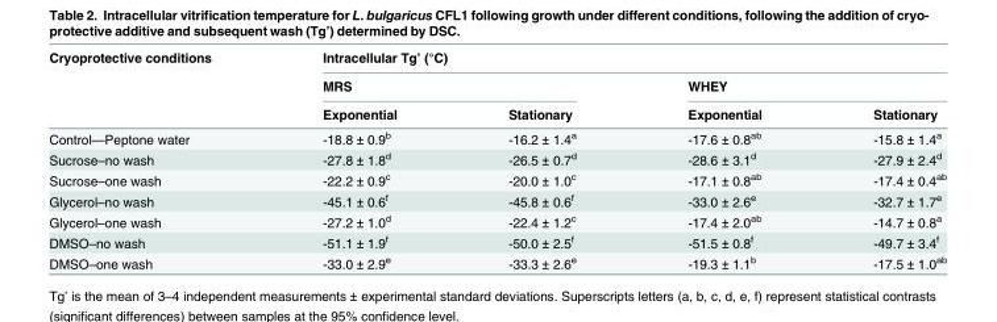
<table><thead><tr><td rowspan="3">Cryoprotective conditions</td><td colspan="4">Intracellular Tg’ (°C)</td></tr><tr><td colspan="2">MRS</td><td colspan="2">WHEY</td></tr><tr><td>Exponential</td><td>Stationary</td><td>Exponential</td><td>Stationary</td></tr></thead><tbody><tr><td>Control—Peptone water</td><td>-18.8 ± 0.9<sup>b</sup></td><td>-16.2 ± 1.4<sup>a</sup></td><td>-17.6 ± 0.8<sup>ab</sup></td><td>-15.8 ± 1.4<sup>a</sup></td></tr><tr><td>Sucrose–no wash</td><td>-27.8 ± 1.8<sup>d</sup></td><td>-26.5 ± 0.7<sup>d</sup></td><td>-28.6 ± 3.1<sup>d</sup></td><td>-27.9 ± 2.4<sup>d</sup></td></tr><tr><td>Sucrose–one wash</td><td>-22.2 ± 0.9<sup>c</sup></td><td>-20.0 ± 1.0<sup>c</sup></td><td>-17.1 ± 0.8<sup>ab</sup></td><td>-17.4 ± 0.4<sup>ab</sup></td></tr><tr><td>Glycerol–no wash</td><td>-45.1 ± 0.6<sup>f</sup></td><td>-45.8 ± 0.6<sup>f</sup></td><td>-33.0 ± 2.6<sup>e</sup></td><td>-32.7 ± 1.7<sup>e</sup></td></tr><tr><td>Glycerol–one wash</td><td>-27.2 ± 1.0<sup>d</sup></td><td>-22.4 ± 1.2<sup>c</sup></td><td>-17.4 ± 2.0<sup>ab</sup></td><td>-14.7 ± 0.8<sup>a</sup></td></tr><tr><td>DMSO–no wash</td><td>-51.1 ± 1.9<sup>f</sup></td><td>-50.0 ± 2.5<sup>f</sup></td><td>-51.5 ± 0.8<sup>f</sup></td><td>-49.7 ± 3.4<sup>f</sup></td></tr><tr><td>DMSO–one wash</td><td>-33.0 ± 2.9<sup>e</sup></td><td>-33.3 ± 2.6<sup>e</sup></td><td>-19.3 ± 1.1<sup>b</sup></td><td>-17.5 ± 1.0<sup>ab</sup></td></tr></tbody></table>